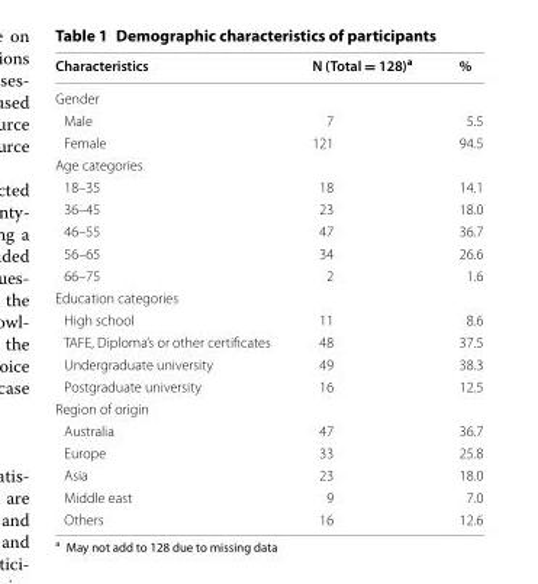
<table><thead><tr><td>Characteristics</td><td>N (Total = 128)<sup>a</sup></td><td>%</td></tr></thead><tbody><tr><td colspan="3">Gender</td></tr><tr><td>Male</td><td>7</td><td>5.5</td></tr><tr><td>Female</td><td>121</td><td>94.5</td></tr><tr><td colspan="3">Age categories</td></tr><tr><td>18–35</td><td>18</td><td>14.1</td></tr><tr><td>36–45</td><td>23</td><td>18.0</td></tr><tr><td>46–55</td><td>47</td><td>36.7</td></tr><tr><td>56–65</td><td>34</td><td>26.6</td></tr><tr><td>66–75</td><td>2</td><td>1.6</td></tr><tr><td colspan="3">Education categories</td></tr><tr><td>High school</td><td>11</td><td>8.6</td></tr><tr><td>TAFE, Diploma’s or other certificates</td><td>48</td><td>37.5</td></tr><tr><td>Undergraduate university</td><td>49</td><td>38.3</td></tr><tr><td>Postgraduate university</td><td>16</td><td>12.5</td></tr><tr><td colspan="3">Region of origin</td></tr><tr><td>Australia</td><td>47</td><td>36.7</td></tr><tr><td>Europe</td><td>33</td><td>25.8</td></tr><tr><td>Asia</td><td>23</td><td>18.0</td></tr><tr><td>Middle east</td><td>9</td><td>7.0</td></tr><tr><td>Others</td><td>16</td><td>12.6</td></tr></tbody></table>